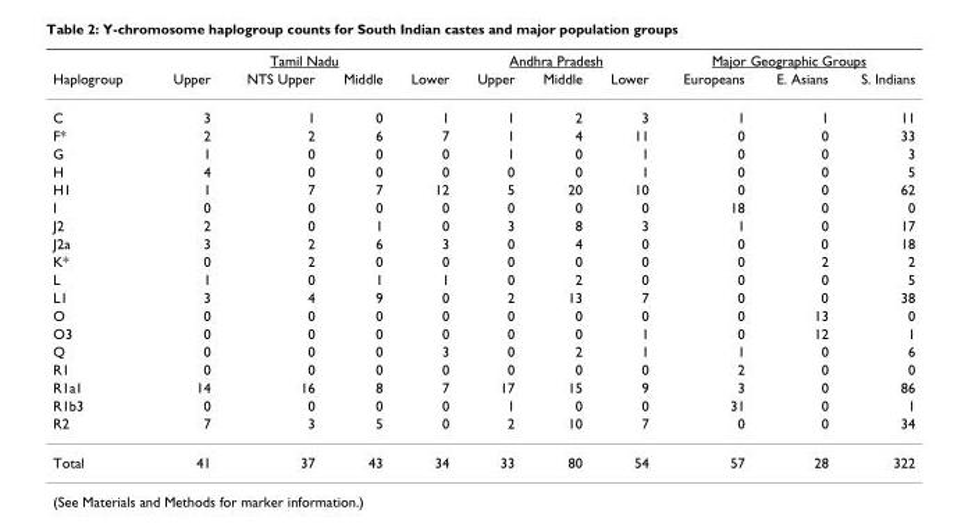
<table><thead><tr><td rowspan="2">Haplogroup</td><td colspan="4">Tamil Nadu</td><td colspan="3">Andhra Pradesh</td><td colspan="3">Major Geographic Groups</td></tr><tr><td>Upper</td><td>NTS Upper</td><td>Middle</td><td>Lower</td><td>Upper</td><td>Middle</td><td>Lower</td><td>Europeans</td><td>E. Asians</td><td>S. Indians</td></tr></thead><tbody><tr><td>C</td><td>3</td><td>1</td><td>0</td><td>1</td><td>1</td><td>2</td><td>3</td><td>1</td><td>1</td><td>11</td></tr><tr><td>F*</td><td>2</td><td>2</td><td>6</td><td>7</td><td>1</td><td>4</td><td>11</td><td>0</td><td>0</td><td>33</td></tr><tr><td>G</td><td>1</td><td>0</td><td>0</td><td>0</td><td>1</td><td>0</td><td>1</td><td>0</td><td>0</td><td>3</td></tr><tr><td>H</td><td>4</td><td>0</td><td>0</td><td>0</td><td>0</td><td>0</td><td>1</td><td>0</td><td>0</td><td>5</td></tr><tr><td>H1</td><td>1</td><td>7</td><td>7</td><td>12</td><td>5</td><td>20</td><td>10</td><td>0</td><td>0</td><td>62</td></tr><tr><td>I</td><td>0</td><td>0</td><td>0</td><td>0</td><td>0</td><td>0</td><td>0</td><td>18</td><td>0</td><td>0</td></tr><tr><td>J2</td><td>2</td><td>0</td><td>1</td><td>0</td><td>3</td><td>8</td><td>3</td><td>1</td><td>0</td><td>17</td></tr><tr><td>J2a</td><td>3</td><td>2</td><td>6</td><td>3</td><td>0</td><td>4</td><td>0</td><td>0</td><td>0</td><td>18</td></tr><tr><td>K*</td><td>0</td><td>2</td><td>0</td><td>0</td><td>0</td><td>0</td><td>0</td><td>0</td><td>2</td><td>2</td></tr><tr><td>L</td><td>1</td><td>0</td><td>1</td><td>1</td><td>0</td><td>2</td><td>0</td><td>0</td><td>0</td><td>5</td></tr><tr><td>L1</td><td>3</td><td>4</td><td>9</td><td>0</td><td>2</td><td>13</td><td>7</td><td>0</td><td>0</td><td>38</td></tr><tr><td>O</td><td>0</td><td>0</td><td>0</td><td>0</td><td>0</td><td>0</td><td>0</td><td>0</td><td>13</td><td>0</td></tr><tr><td>O3</td><td>0</td><td>0</td><td>0</td><td>0</td><td>0</td><td>0</td><td>1</td><td>0</td><td>12</td><td>1</td></tr><tr><td>Q</td><td>0</td><td>0</td><td>0</td><td>3</td><td>0</td><td>2</td><td>1</td><td>1</td><td>0</td><td>6</td></tr><tr><td>R1</td><td>0</td><td>0</td><td>0</td><td>0</td><td>0</td><td>0</td><td>0</td><td>2</td><td>0</td><td>0</td></tr><tr><td>R1a1</td><td>14</td><td>16</td><td>8</td><td>7</td><td>17</td><td>15</td><td>9</td><td>3</td><td>0</td><td>86</td></tr><tr><td>R1b3</td><td>0</td><td>0</td><td>0</td><td>0</td><td>1</td><td>0</td><td>0</td><td>31</td><td>0</td><td>1</td></tr><tr><td>R2</td><td>7</td><td>3</td><td>5</td><td>0</td><td>2</td><td>10</td><td>7</td><td>0</td><td>0</td><td>34</td></tr><tr><td>Total</td><td>41</td><td>37</td><td>43</td><td>34</td><td>33</td><td>80</td><td>54</td><td>57</td><td>28</td><td>322</td></tr></tbody></table>